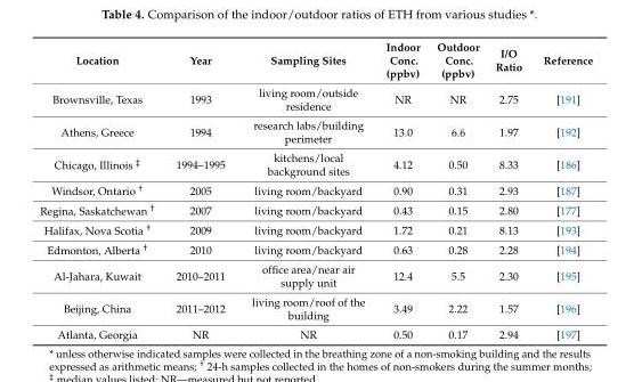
<table><thead><tr><td>Location</td><td>Year</td><td>Sampling Sites</td><td>Indoor Conc. (ppbv)</td><td>Outdoor Conc. (ppbv)</td><td>I/O Ratio</td><td>Reference</td></tr></thead><tbody><tr><td>Brownsville, Texas</td><td>1993</td><td>living room/outside residence</td><td>NR</td><td>NR</td><td>2.75</td><td>[191]</td></tr><tr><td>Athens, Greece</td><td>1994</td><td>research labs/building perimeter</td><td>13.0</td><td>6.6</td><td>1.97</td><td>[192]</td></tr><tr><td>Chicago, Illinois <sup>‡</sup></td><td>1994–1995</td><td>kitchens/local background sites</td><td>4.12</td><td>0.50</td><td>8.33</td><td>[186]</td></tr><tr><td>Windsor, Ontario <sup>†</sup></td><td>2005</td><td>living room/backyard</td><td>0.90</td><td>0.31</td><td>2.93</td><td>[187]</td></tr><tr><td>Regina, Saskatchewan <sup>†</sup></td><td>2007</td><td>living room/backyard</td><td>0.43</td><td>0.15</td><td>2.80</td><td>[177]</td></tr><tr><td>Halifax, Nova Scotia <sup>†</sup></td><td>2009</td><td>living room/backyard</td><td>1.72</td><td>0.21</td><td>8.13</td><td>[193]</td></tr><tr><td>Edmonton, Alberta <sup>†</sup></td><td>2010</td><td>living room/backyard</td><td>0.63</td><td>0.28</td><td>2.28</td><td>[194]</td></tr><tr><td>Al-Jahara, Kuwait</td><td>2010–2011</td><td>office area/near air supply unit</td><td>12.4</td><td>5.5</td><td>2.30</td><td>[195]</td></tr><tr><td>Beijing, China</td><td>2011–2012</td><td>living room/roof of the building</td><td>3.49</td><td>2.22</td><td>1.57</td><td>[196]</td></tr><tr><td>Atlanta, Georgia</td><td>NR</td><td>NR</td><td>0.50</td><td>0.17</td><td>2.94</td><td>[197]</td></tr></tbody></table>